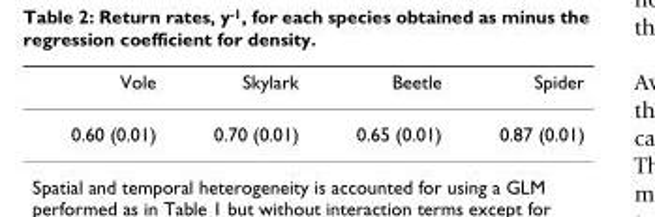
<table><thead><tr><td>Vole</td><td>Skylark</td><td>Beetle</td><td>Spider</td></tr></thead><tbody><tr><td>0.60 (0.01)</td><td>0.70 (0.01)</td><td>0.65 (0.01)</td><td>0.87 (0.01)</td></tr></tbody></table>